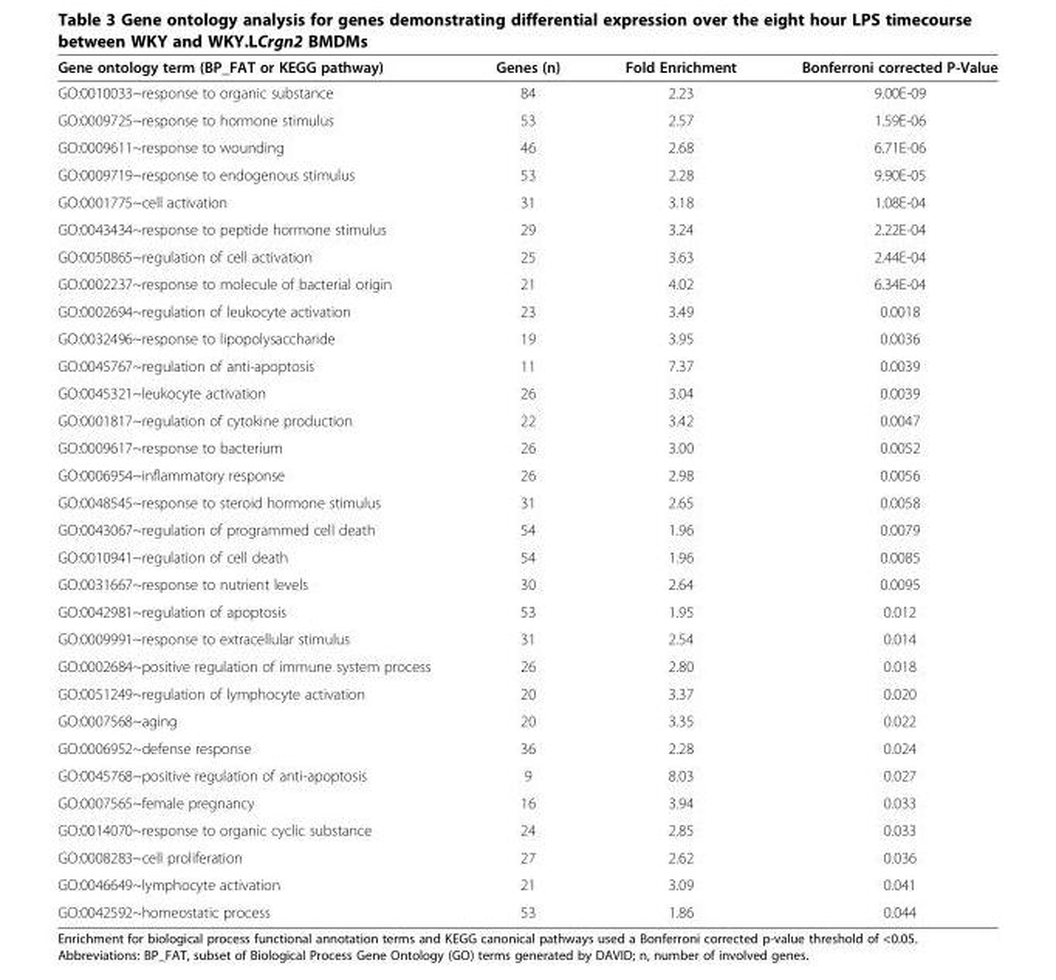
<table><thead><tr><td>Gene ontology term (BP_FAT or KEGG pathway)</td><td>Genes (n)</td><td>Fold Enrichment</td><td>Bonferroni corrected P-Value</td></tr></thead><tbody><tr><td>GO:0010033~response to organic substance</td><td>84</td><td>2.23</td><td>9.00E-09</td></tr><tr><td>GO:0009725~response to hormone stimulus</td><td>53</td><td>2.57</td><td>1.59E-06</td></tr><tr><td>GO:0009611~response to wounding</td><td>46</td><td>2.68</td><td>6.71E-06</td></tr><tr><td>GO:0009719~response to endogenous stimulus</td><td>53</td><td>2.28</td><td>9.90E-05</td></tr><tr><td>GO:0001775~cell activation</td><td>31</td><td>3.18</td><td>1.08E-04</td></tr><tr><td>GO:0043434~response to peptide hormone stimulus</td><td>29</td><td>3.24</td><td>2.22E-04</td></tr><tr><td>GO:0050865~regulation of cell activation</td><td>25</td><td>3.63</td><td>2.44E-04</td></tr><tr><td>GO:0002237~response to molecule of bacterial origin</td><td>21</td><td>4.02</td><td>6.34E-04</td></tr><tr><td>GO:0002694~regulation of leukocyte activation</td><td>23</td><td>3.49</td><td>0.0018</td></tr><tr><td>GO:0032496~response to lipopolysaccharide</td><td>19</td><td>3.95</td><td>0.0036</td></tr><tr><td>GO:0045767~regulation of anti-apoptosis</td><td>11</td><td>7.37</td><td>0.0039</td></tr><tr><td>GO:0045321~leukocyte activation</td><td>26</td><td>3.04</td><td>0.0039</td></tr><tr><td>GO:0001817~regulation of cytokine production</td><td>22</td><td>3.42</td><td>0.0047</td></tr><tr><td>GO:0009617~response to bacterium</td><td>26</td><td>3.00</td><td>0.0052</td></tr><tr><td>GO:0006954~inflammatory response</td><td>26</td><td>2.98</td><td>0.0056</td></tr><tr><td>GO:0048545~response to steroid hormone stimulus</td><td>31</td><td>2.65</td><td>0.0058</td></tr><tr><td>GO:0043067~regulation of programmed cell death</td><td>54</td><td>1.96</td><td>0.0079</td></tr><tr><td>GO:0010941~regulation of cell death</td><td>54</td><td>1.96</td><td>0.0085</td></tr><tr><td>GO:0031667~response to nutrient levels</td><td>30</td><td>2.64</td><td>0.0095</td></tr><tr><td>GO:0042981~regulation of apoptosis</td><td>53</td><td>1.95</td><td>0.012</td></tr><tr><td>GO:0009991~response to extracellular stimulus</td><td>31</td><td>2.54</td><td>0.014</td></tr><tr><td>GO:0002684~positive regulation of immune system process</td><td>26</td><td>2.80</td><td>0.018</td></tr><tr><td>GO:0051249~regulation of lymphocyte activation</td><td>20</td><td>3.37</td><td>0.020</td></tr><tr><td>GO:0007568~aging</td><td>20</td><td>3.35</td><td>0.022</td></tr><tr><td>GO:0006952~defense response</td><td>36</td><td>2.28</td><td>0.024</td></tr><tr><td>GO:0045768~positive regulation of anti-apoptosis</td><td>9</td><td>8.03</td><td>0.027</td></tr><tr><td>GO:0007565~female pregnancy</td><td>16</td><td>3.94</td><td>0.033</td></tr><tr><td>GO:0014070~response to organic cyclic substance</td><td>24</td><td>2.85</td><td>0.033</td></tr><tr><td>GO:0008283~cell proliferation</td><td>27</td><td>2.62</td><td>0.036</td></tr><tr><td>GO:0046649~lymphocyte activation</td><td>21</td><td>3.09</td><td>0.041</td></tr><tr><td>GO:0042592~homeostatic process</td><td>53</td><td>1.86</td><td>0.044</td></tr></tbody></table>